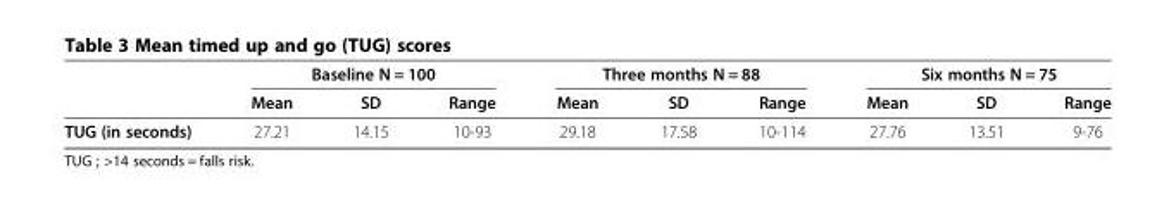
<table><thead><tr><td rowspan="2"></td><td colspan="3">Baseline N = 100</td><td colspan="3">Three months N = 88</td><td colspan="3">Six months N = 75</td></tr><tr><td>Mean</td><td>SD</td><td>Range</td><td>Mean</td><td>SD</td><td>Range</td><td>Mean</td><td>SD</td><td>Range</td></tr></thead><tbody><tr><td>TUG (in seconds)</td><td>27.21</td><td>14.15</td><td>10-93</td><td>29.18</td><td>17.58</td><td>10-114</td><td>27.76</td><td>13.51</td><td>9-76</td></tr></tbody></table>